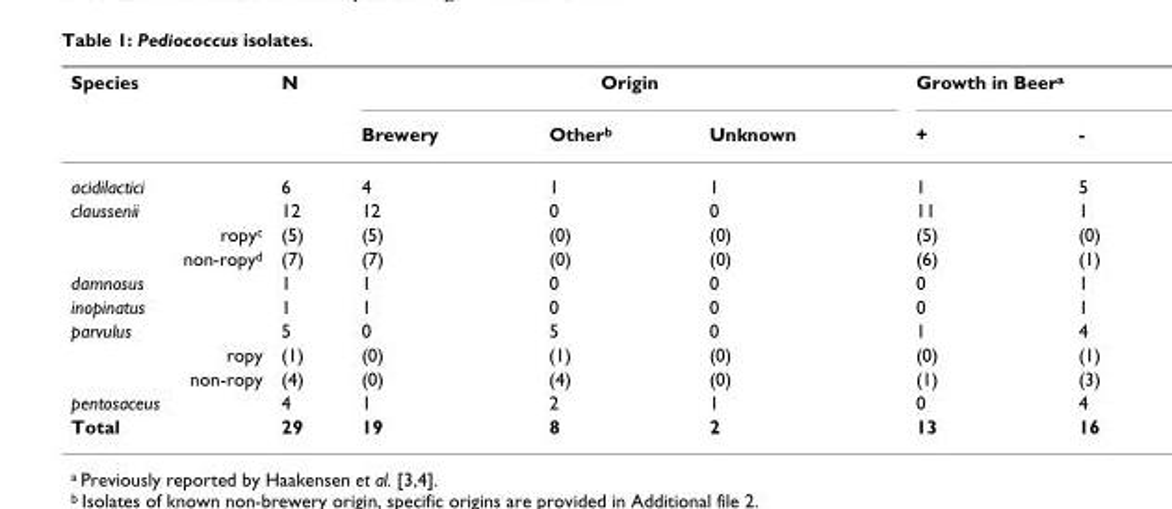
<table><thead><tr><td rowspan="2">Species</td><td rowspan="2">N</td><td colspan="3">Origin</td><td colspan="2">Growth in Beer<sup>a</sup></td></tr><tr><td>Brewery</td><td>Other<sup>b</sup></td><td>Unknown</td><td>+</td><td>-</td></tr></thead><tbody><tr><td>acidilactici</td><td>6</td><td>4</td><td>1</td><td>1</td><td>1</td><td>5</td></tr><tr><td>claussenii</td><td>12</td><td>12</td><td>0</td><td>0</td><td>11</td><td>1</td></tr><tr><td>ropy<sup>c</sup></td><td>(5)</td><td>(5)</td><td>(0)</td><td>(0)</td><td>(5)</td><td>(0)</td></tr><tr><td>non-ropy<sup>d</sup></td><td>(7)</td><td>(7)</td><td>(0)</td><td>(0)</td><td>(6)</td><td>(1)</td></tr><tr><td>damnosus</td><td>1</td><td>1</td><td>0</td><td>0</td><td>0</td><td>1</td></tr><tr><td>inopinatus</td><td>1</td><td>1</td><td>0</td><td>0</td><td>0</td><td>1</td></tr><tr><td>parvulus</td><td>5</td><td>0</td><td>5</td><td>0</td><td>1</td><td>4</td></tr><tr><td>ropy</td><td>(1)</td><td>(0)</td><td>(1)</td><td>(0)</td><td>(0)</td><td>(1)</td></tr><tr><td>non-ropy</td><td>(4)</td><td>(0)</td><td>(4)</td><td>(0)</td><td>(1)</td><td>(3)</td></tr><tr><td>pentosaceus</td><td>4</td><td>1</td><td>2</td><td>1</td><td>0</td><td>4</td></tr><tr><td>Total</td><td>29</td><td>19</td><td>8</td><td>2</td><td>13</td><td>16</td></tr></tbody></table>